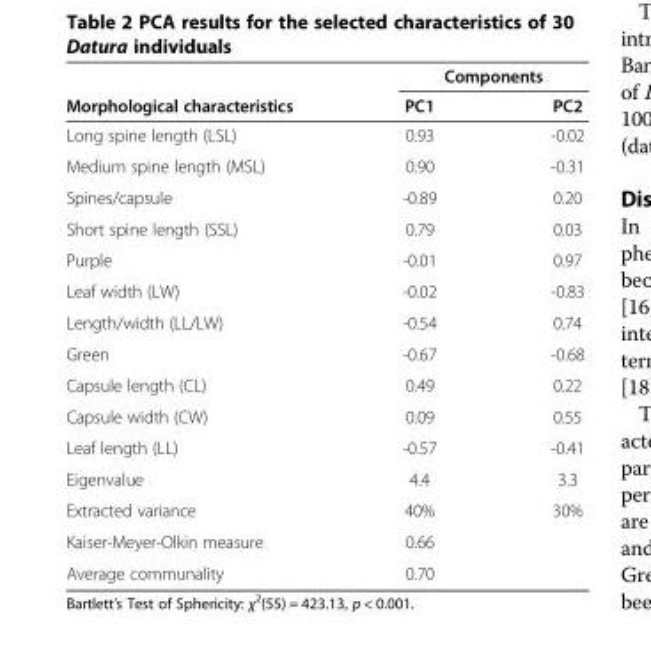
<table><thead><tr><td rowspan="2">Morphological characteristics</td><td colspan="2">Components</td></tr><tr><td>PC1</td><td>PC2</td></tr></thead><tbody><tr><td>Long spine length (LSL)</td><td>0.93</td><td>-0.02</td></tr><tr><td>Medium spine length (MSL)</td><td>0.90</td><td>-0.31</td></tr><tr><td>Spines/capsule</td><td>-0.89</td><td>0.20</td></tr><tr><td>Short spine length (SSL)</td><td>0.79</td><td>0.03</td></tr><tr><td>Purple</td><td>-0.01</td><td>0.97</td></tr><tr><td>Leaf width (LW)</td><td>-0.02</td><td>-0.83</td></tr><tr><td>Length/width (LL/LW)</td><td>-0.54</td><td>0.74</td></tr><tr><td>Green</td><td>-0.67</td><td>-0.68</td></tr><tr><td>Capsule length (CL)</td><td>0.49</td><td>0.22</td></tr><tr><td>Capsule width (CW)</td><td>0.09</td><td>0.55</td></tr><tr><td>Leaf length (LL)</td><td>-0.57</td><td>-0.41</td></tr><tr><td>Eigenvalue</td><td>4.4</td><td>3.3</td></tr><tr><td>Extracted variance</td><td>40%</td><td>30%</td></tr><tr><td>Kaiser-Meyer-Olkin measure</td><td>0.66</td><td></td></tr><tr><td>Average communality</td><td>0.70</td><td></td></tr></tbody></table>